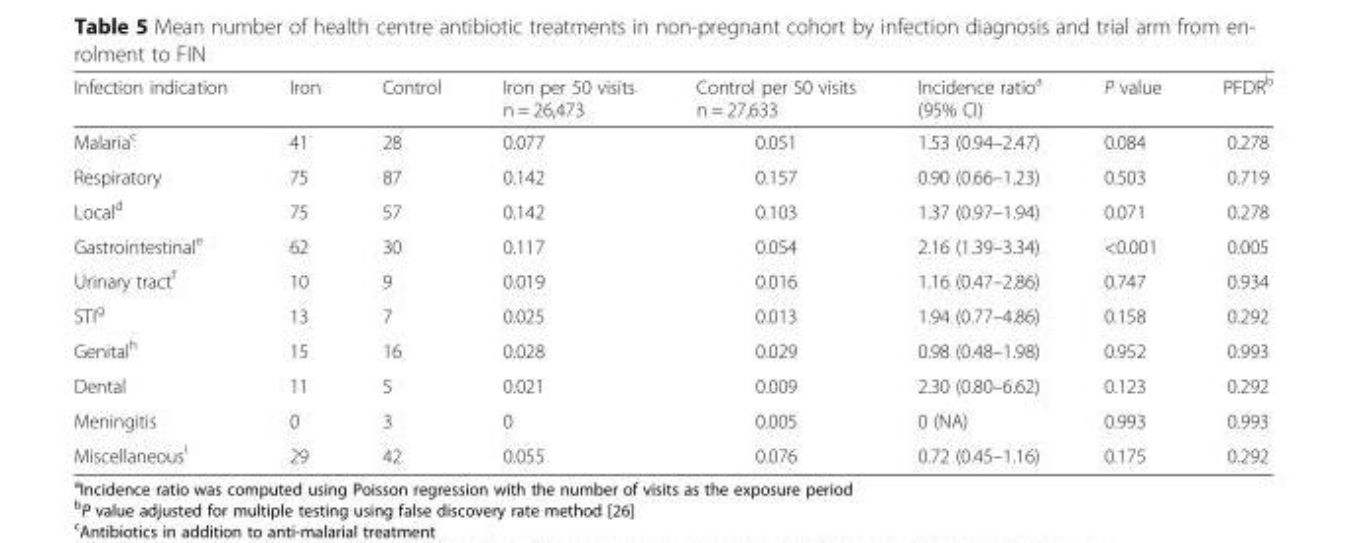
<table><thead><tr><td>Infection indication</td><td>Iron</td><td>Control</td><td>Iron per 50 visits n = 26,473</td><td>Control per 50 visits n = 27,633</td><td>Incidence ratio<sup>a</sup> (95% CI)</td><td>P value</td><td>PFDR<sup>b</sup></td></tr></thead><tbody><tr><td>Malaria<sup>c</sup></td><td>41</td><td>28</td><td>0.077</td><td>0.051</td><td>1.53 (0.94–2.47)</td><td>0.084</td><td>0.278</td></tr><tr><td>Respiratory</td><td>75</td><td>87</td><td>0.142</td><td>0.157</td><td>0.90 (0.66–1.23)</td><td>0.503</td><td>0.719</td></tr><tr><td>Local<sup>d</sup></td><td>75</td><td>57</td><td>0.142</td><td>0.103</td><td>1.37 (0.97–1.94)</td><td>0.071</td><td>0.278</td></tr><tr><td>Gastrointestinal<sup>e</sup></td><td>62</td><td>30</td><td>0.117</td><td>0.054</td><td>2.16 (1.39–3.34)</td><td>&lt;0.001</td><td>0.005</td></tr><tr><td>Urinary tract<sup>f</sup></td><td>10</td><td>9</td><td>0.019</td><td>0.016</td><td>1.16 (0.47–2.86)</td><td>0.747</td><td>0.934</td></tr><tr><td>STI<sup>g</sup></td><td>13</td><td>7</td><td>0.025</td><td>0.013</td><td>1.94 (0.77–4.86)</td><td>0.158</td><td>0.292</td></tr><tr><td>Genital<sup>h</sup></td><td>15</td><td>16</td><td>0.028</td><td>0.029</td><td>0.98 (0.48–1.98)</td><td>0.952</td><td>0.993</td></tr><tr><td>Dental</td><td>11</td><td>5</td><td>0.021</td><td>0.009</td><td>2.30 (0.80–6.62)</td><td>0.123</td><td>0.292</td></tr><tr><td>Meningitis</td><td>0</td><td>3</td><td>0</td><td>0.005</td><td>0 (NA)</td><td>0.993</td><td>0.993</td></tr><tr><td>Miscellaneous<sup>i</sup></td><td>29</td><td>42</td><td>0.055</td><td>0.076</td><td>0.72 (0.45–1.16)</td><td>0.175</td><td>0.292</td></tr></tbody></table>